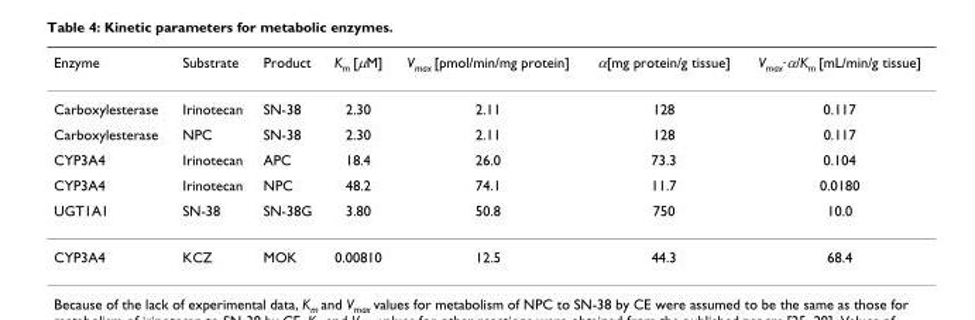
<table><thead><tr><td>Enzyme</td><td>Substrate</td><td>Product</td><td>K<sub>m</sub> [μM]</td><td>V<sub>max</sub> [pmol/min/mg protein]</td><td>α[mg protein/g tissue]</td><td>V<sub>max</sub>·α/K<sub>m</sub> [mL/min/g tissue]</td></tr></thead><tbody><tr><td>Carboxylesterase</td><td>Irinotecan</td><td>SN-38</td><td>2.30</td><td>2.11</td><td>128</td><td>0.117</td></tr><tr><td>Carboxylesterase</td><td>NPC</td><td>SN-38</td><td>2.30</td><td>2.11</td><td>128</td><td>0.117</td></tr><tr><td>CYP3A4</td><td>Irinotecan</td><td>APC</td><td>18.4</td><td>26.0</td><td>73.3</td><td>0.104</td></tr><tr><td>CYP3A4</td><td>Irinotecan</td><td>NPC</td><td>48.2</td><td>74.1</td><td>11.7</td><td>0.0180</td></tr><tr><td>UGT1A1</td><td>SN-38</td><td>SN-38G</td><td>3.80</td><td>50.8</td><td>750</td><td>10.0</td></tr><tr><td>CYP3A4</td><td>KCZ</td><td>MOK</td><td>0.00810</td><td>12.5</td><td>44.3</td><td>68.4</td></tr></tbody></table>